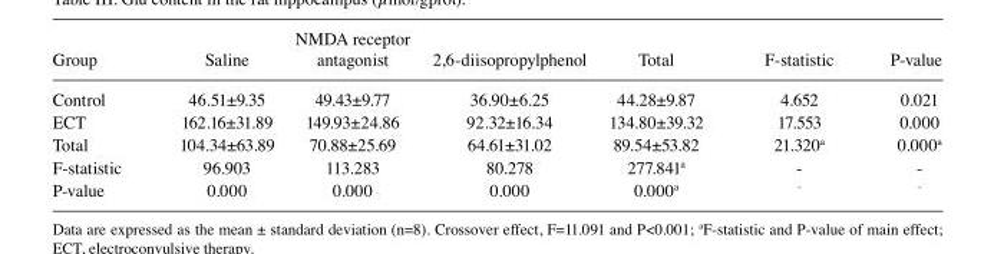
<table><thead><tr><td>Group</td><td>Saline</td><td>antagonist</td><td>2,6-diisopropylphenol</td><td>Total</td><td>F-statistic</td><td>P-value</td></tr></thead><tbody><tr><td>Control</td><td>46.51±9.35</td><td>49.43±9.77</td><td>36.90±6.25</td><td>44.28±9.87</td><td>4.652</td><td>0.021</td></tr><tr><td>ECT</td><td>162.16±31.89</td><td>149.93±24.86</td><td>92.32±16.34</td><td>134.80±39.32</td><td>17.553</td><td>0.000</td></tr><tr><td>Total</td><td>104.34±63.89</td><td>70.88±25.69</td><td>64.61±31.02</td><td>89.54±53.82</td><td>21.320<sup>a</sup></td><td>0.000<sup>a</sup></td></tr><tr><td>F-statistic</td><td>96.903</td><td>113.283</td><td>80.278</td><td>277.841<sup>a</sup></td><td>-</td><td>-</td></tr><tr><td>P-value</td><td>0.000</td><td>0.000</td><td>0.000</td><td>0.000<sup>a</sup></td><td>-</td><td>-</td></tr></tbody></table>